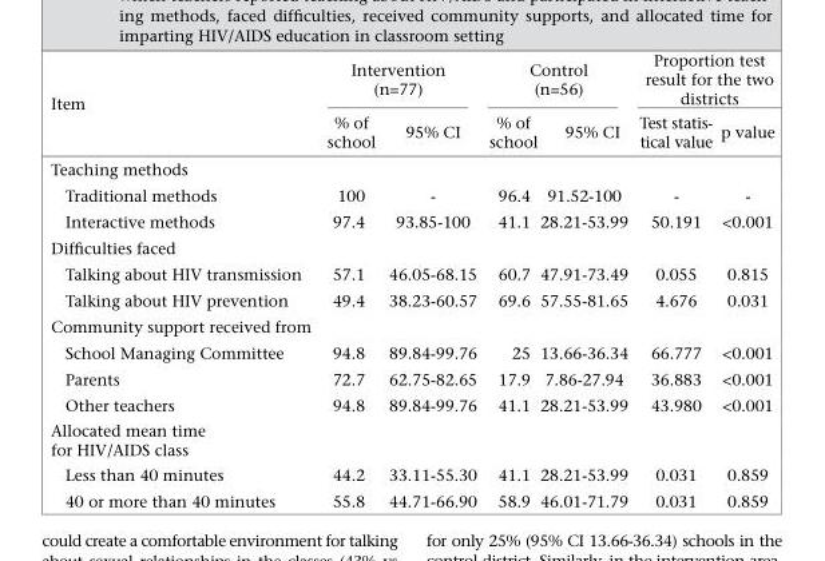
<table><thead><tr><td rowspan="2">Item</td><td colspan="2">Intervention (n=77)</td><td colspan="2">Control (n=56)</td><td colspan="2">Proportion test result for the two districts</td></tr><tr><td>% of school</td><td>95% CI</td><td>% of school</td><td>95% CI</td><td>Test statis- tical value</td><td>p value</td></tr></thead><tbody><tr><td colspan="7">Teaching methods</td></tr><tr><td>Traditional methods</td><td>100</td><td>-</td><td>96.4</td><td>91.52-100</td><td>-</td><td>-</td></tr><tr><td>Interactive methods</td><td>97.4</td><td>93.85-100</td><td>41.1</td><td>28.21-53.99</td><td>50.191</td><td>&lt;0.001</td></tr><tr><td colspan="7">Difficulties faced</td></tr><tr><td>Talking about HIV transmission</td><td>57.1</td><td>46.05-68.15</td><td>60.7</td><td>47.91-73.49</td><td>0.055</td><td>0.815</td></tr><tr><td>Talking about HIV prevention</td><td>49.4</td><td>38.23-60.57</td><td>69.6</td><td>57.55-81.65</td><td>4.676</td><td>0.031</td></tr><tr><td colspan="7">Community support received from</td></tr><tr><td>School Managing Committee</td><td>94.8</td><td>89.84-99.76</td><td>25</td><td>13.66-36.34</td><td>66.777</td><td>&lt;0.001</td></tr><tr><td>Parents</td><td>72.7</td><td>62.75-82.65</td><td>17.9</td><td>7.86-27.94</td><td>36.883</td><td>&lt;0.001</td></tr><tr><td>Other teachers</td><td>94.8</td><td>89.84-99.76</td><td>41.1</td><td>28.21-53.99</td><td>43.980</td><td>&lt;0.001</td></tr><tr><td colspan="7">Allocated mean time for HIV/AIDS class</td></tr><tr><td>Less than 40 minutes</td><td>44.2</td><td>33.11-55.30</td><td>41.1</td><td>28.21-53.99</td><td>0.031</td><td>0.859</td></tr><tr><td>40 or more than 40 minutes</td><td>55.8</td><td>44.71-66.90</td><td>58.9</td><td>46.01-71.79</td><td>0.031</td><td>0.859</td></tr></tbody></table>